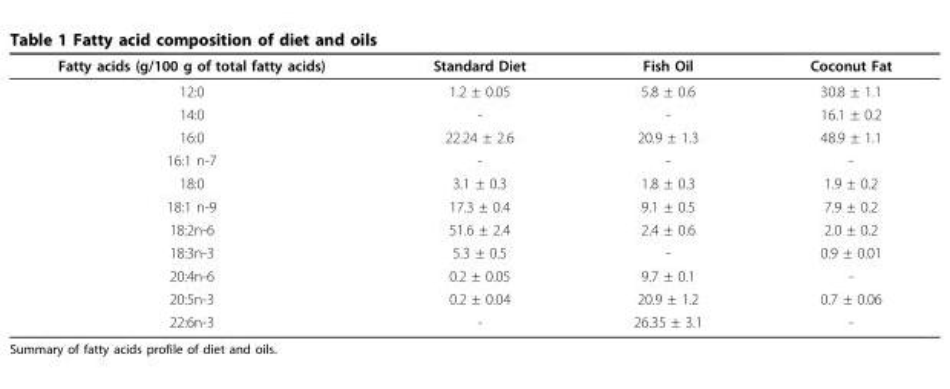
<table><thead><tr><td>Fatty acids (g/100 g of total fatty acids)</td><td>Standard Diet</td><td>Fish Oil</td><td>Coconut Fat</td></tr></thead><tbody><tr><td>12:0</td><td>1.2 ± 0.05</td><td>5.8 ± 0.6</td><td>30.8 ± 1.1</td></tr><tr><td>14:0</td><td>-</td><td>-</td><td>16.1 ± 0.2</td></tr><tr><td>16:0</td><td>22.24 ± 2.6</td><td>20.9 ± 1.3</td><td>48.9 ± 1.1</td></tr><tr><td>16:1 n-7</td><td>-</td><td>-</td><td>-</td></tr><tr><td>18:0</td><td>3.1 ± 0.3</td><td>1.8 ± 0.3</td><td>1.9 ± 0.2</td></tr><tr><td>18:1 n-9</td><td>17.3 ± 0.4</td><td>9.1 ± 0.5</td><td>7.9 ± 0.2</td></tr><tr><td>18:2n-6</td><td>51.6 ± 2.4</td><td>2.4 ± 0.6</td><td>2.0 ± 0.2</td></tr><tr><td>18:3n-3</td><td>5.3 ± 0.5</td><td>-</td><td>0.9 ± 0.01</td></tr><tr><td>20:4n-6</td><td>0.2 ± 0.05</td><td>9.7 ± 0.1</td><td>-</td></tr><tr><td>20:5n-3</td><td>0.2 ± 0.04</td><td>20.9 ± 1.2</td><td>0.7 ± 0.06</td></tr><tr><td>22:6n-3</td><td>-</td><td>26.35 ± 3.1</td><td>-</td></tr></tbody></table>